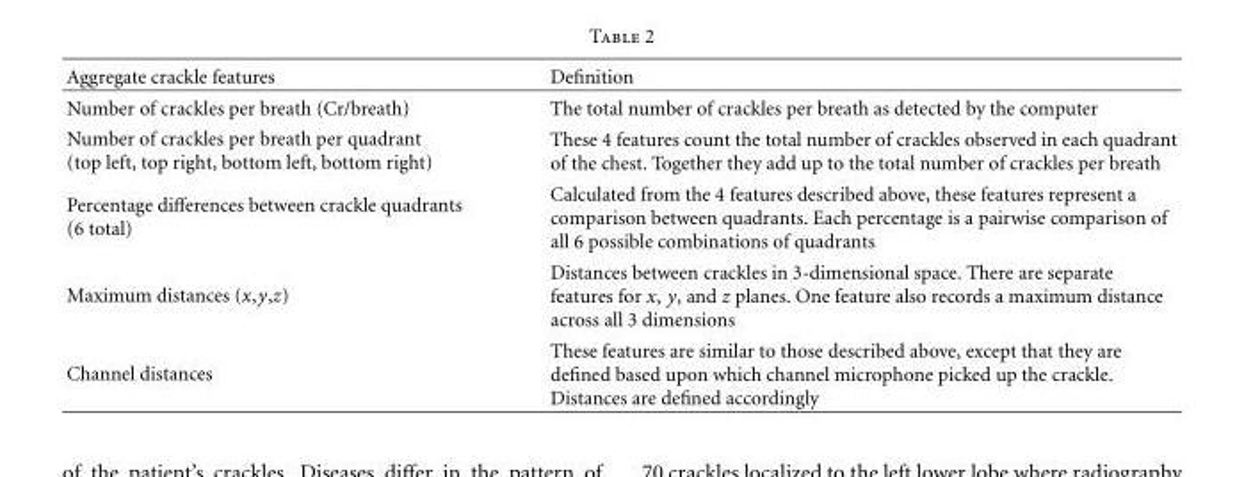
<table><thead><tr><td>Aggregate crackle features</td><td>Definition</td></tr></thead><tbody><tr><td>Number of crackles per breath (Cr/breath)</td><td>The total number of crackles per breath as detected by the computer</td></tr><tr><td>Number of crackles per breath per quadrant (top left, top right, bottom left, bottom right)</td><td>These 4 features count the total number of crackles observed in each quadrant of the chest. Together they add up to the total number of crackles per breath</td></tr><tr><td>Percentage differences between crackle quadrants (6 total)</td><td>Calculated from the 4 features described above, these features represent a comparison between quadrants. Each percentage is a pairwise comparison of all 6 possible combinations of quadrants</td></tr><tr><td>Maximum distances (x,y,z)</td><td>Distances between crackles in 3-dimensional space. There are separate features for x, y, and z planes. One feature also records a maximum distance across all 3 dimensions</td></tr><tr><td>Channel distances</td><td>These features are similar to those described above, except that they are defined based upon which channel microphone picked up the crackle. Distances are defined accordingly</td></tr></tbody></table>